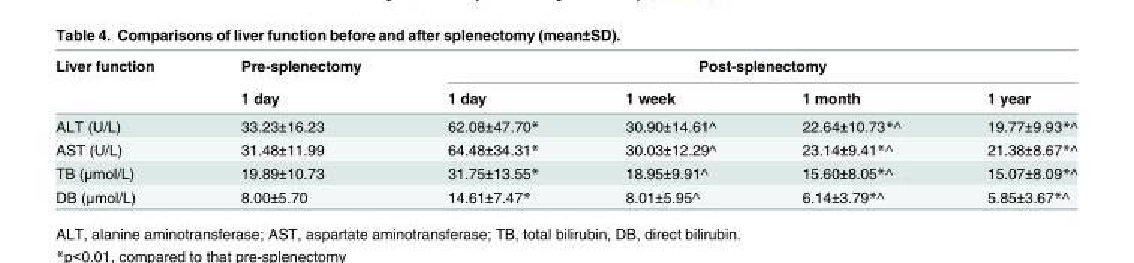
<table><thead><tr><td rowspan="2">Liver function</td><td rowspan="2">Pre-splenectomy 1 day</td><td colspan="4">Post-splenectomy</td></tr><tr><td>1 day</td><td>1 week</td><td>1 month</td><td>1 year</td></tr></thead><tbody><tr><td>ALT (U/L)</td><td>33.23±16.23</td><td>62.08±47.70*</td><td>30.90±14.61^</td><td>22.64±10.73*^</td><td>19.77±9.93*^</td></tr><tr><td>AST (U/L)</td><td>31.48±11.99</td><td>64.48±34.31*</td><td>30.03±12.29^</td><td>23.14±9.41*^</td><td>21.38±8.67*^</td></tr><tr><td>TB (μmol/L)</td><td>19.89±10.73</td><td>31.75±13.55*</td><td>18.95±9.91^</td><td>15.60±8.05*^</td><td>15.07±8.09*^</td></tr><tr><td>DB (μmol/L)</td><td>8.00±5.70</td><td>14.61±7.47*</td><td>8.01±5.95^</td><td>6.14±3.79*^</td><td>5.85±3.67*^</td></tr></tbody></table>